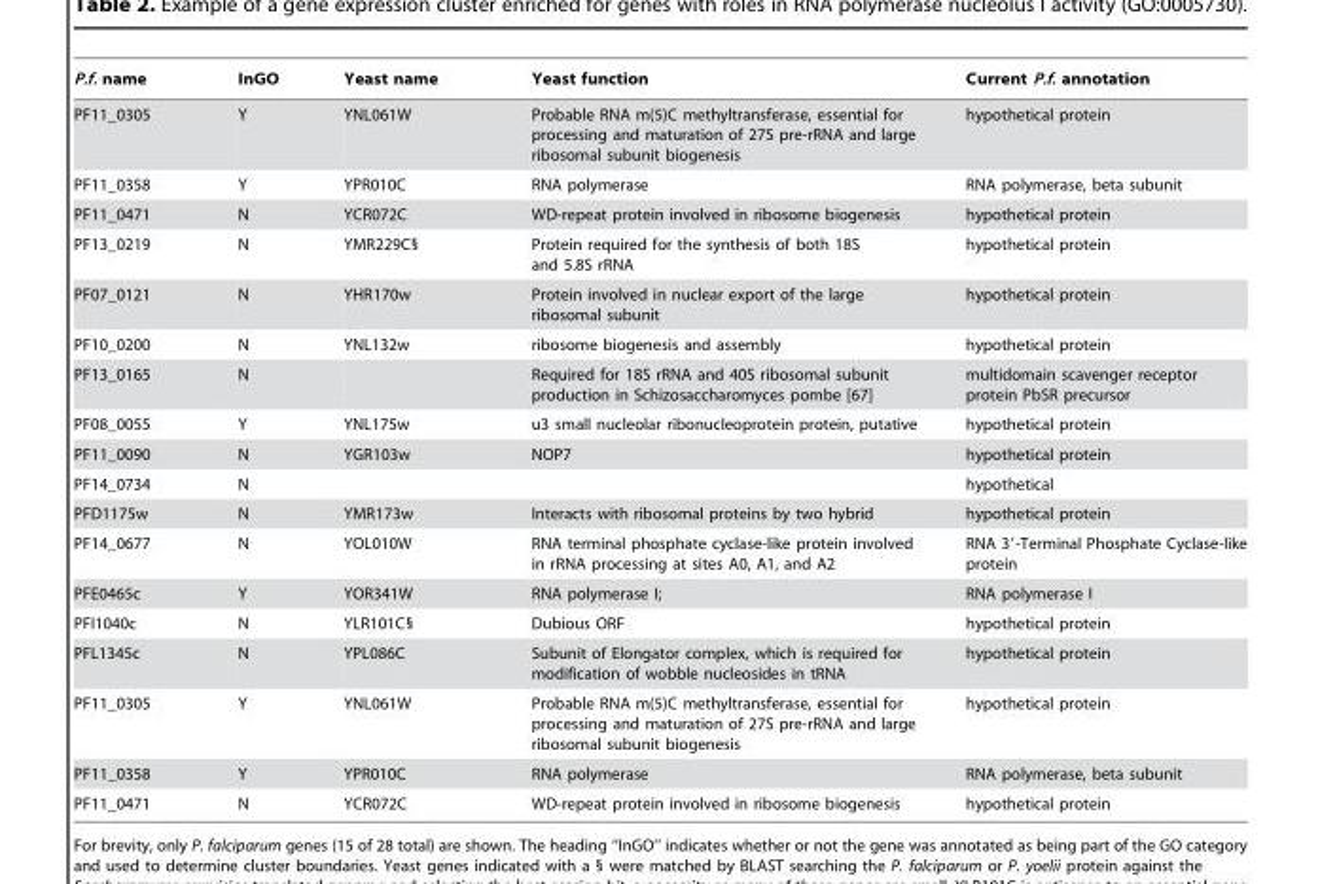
<table><thead><tr><td>P.f. name</td><td>InGO</td><td>Yeast name</td><td>Yeast function</td><td>Current P.f. annotation</td></tr></thead><tbody><tr><td>PF11_0305</td><td>Y</td><td>YNL061W</td><td>Probable RNA m(5)C methyltransferase, essential for processing and maturation of 27S pre-rRNA and large ribosomal subunit biogenesis</td><td>hypothetical protein</td></tr><tr><td>PF11_0358</td><td>Y</td><td>YPR010C</td><td>RNA polymerase</td><td>RNA polymerase, beta subunit</td></tr><tr><td>PF11_0471</td><td>N</td><td>YCR072C</td><td>WD-repeat protein involved in ribosome biogenesis</td><td>hypothetical protein</td></tr><tr><td>PF13_0219</td><td>N</td><td>YMR229C§</td><td>Protein required for the synthesis of both 18S and 5.8S rRNA</td><td>hypothetical protein</td></tr><tr><td>PF07_0121</td><td>N</td><td>YHR170w</td><td>Protein involved in nuclear export of the large ribosomal subunit</td><td>hypothetical protein</td></tr><tr><td>PF10_0200</td><td>N</td><td>YNL132w</td><td>ribosome biogenesis and assembly</td><td>hypothetical protein</td></tr><tr><td>PF13_0165</td><td>N</td><td></td><td>Required for 18S rRNA and 40S ribosomal subunit production in Schizosaccharomyces pombe [67]</td><td>multidomain scavenger receptor protein PbSR precursor</td></tr><tr><td>PF08_0055</td><td>Y</td><td>YNL175w</td><td>u3 small nucleolar ribonucleoprotein protein, putative</td><td>hypothetical protein</td></tr><tr><td>PF11_0090</td><td>N</td><td>YGR103w</td><td>NOP7</td><td>hypothetical protein</td></tr><tr><td>PF14_0734</td><td>N</td><td></td><td></td><td>hypothetical</td></tr><tr><td>PFD1175w</td><td>N</td><td>YMR173w</td><td>Interacts with ribosomal proteins by two hybrid</td><td>hypothetical protein</td></tr><tr><td>PF14_0677</td><td>N</td><td>YOL010W</td><td>RNA terminal phosphate cyclase-like protein involved in rRNA processing at sites A0, A1, and A2</td><td>RNA 3′-Terminal Phosphate Cyclase-like protein</td></tr><tr><td>PFE0465c</td><td>Y</td><td>YOR341W</td><td>RNA polymerase I;</td><td>RNA polymerase I</td></tr><tr><td>PFI1040c</td><td>N</td><td>YLR101C§</td><td>Dubious ORF</td><td>hypothetical protein</td></tr><tr><td>PFL1345c</td><td>N</td><td>YPL086C</td><td>Subunit of Elongator complex, which is required for modification of wobble nucleosides in tRNA</td><td>hypothetical protein</td></tr><tr><td>PF11_0305</td><td>Y</td><td>YNL061W</td><td>Probable RNA m(5)C methyltransferase, essential for processing and maturation of 27S pre-rRNA and large ribosomal subunit biogenesis</td><td>hypothetical protein</td></tr><tr><td>PF11_0358</td><td>Y</td><td>YPR010C</td><td>RNA polymerase</td><td>RNA polymerase, beta subunit</td></tr><tr><td>PF11_0471</td><td>N</td><td>YCR072C</td><td>WD-repeat protein involved in ribosome biogenesis</td><td>hypothetical protein</td></tr></tbody></table>